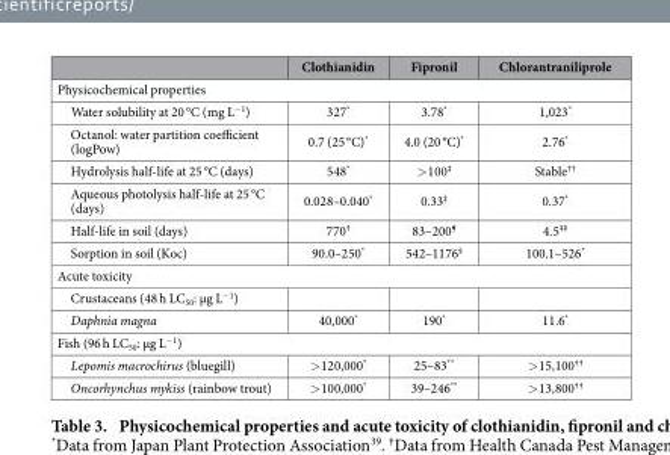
<table><thead><tr><td></td><td>Clothianidin</td><td>Fipronil</td><td>Chlorantraniliprole</td></tr></thead><tbody><tr><td colspan="4">Physicochemical properties</td></tr><tr><td>Water solubility at 20 °C (mg L<sup>−1</sup>)</td><td>327*</td><td>3.78*</td><td>1,023*</td></tr><tr><td>Octanol: water partition coefficient (logPow)</td><td>0.7 (25 °C)*</td><td>4.0 (20 °C)*</td><td>2.76*</td></tr><tr><td>Hydrolysis half-life at 25 °C (days)</td><td>548*</td><td>&gt; 100‡</td><td>Stable††</td></tr><tr><td>Aqueous photolysis half-life at 25 °C (days)</td><td>0.028–0.040*</td><td>0.33‡</td><td>0.37*</td></tr><tr><td>Half-life in soil (days)</td><td>770†</td><td>83–200¶</td><td>4.5‡‡</td></tr><tr><td>Sorption in soil (Koc)</td><td>90.0–250*</td><td>542–1176§</td><td>100.1–526*</td></tr><tr><td colspan="4">Acute toxicity</td></tr><tr><td colspan="4">Crustaceans (48 h LC<sub>50</sub>: μg L<sup>−1</sup>)</td></tr><tr><td>Daphnia magna</td><td>40,000*</td><td>190*</td><td>11.6*</td></tr><tr><td colspan="4">Fish (96 h LC<sub>50</sub>: μg L<sup>−1</sup>)</td></tr><tr><td>Lepomis macrochirus (bluegill)</td><td>&gt; 120,000*</td><td>25–83**</td><td>&gt; 15,100††</td></tr><tr><td>Oncorhynchus mykiss (rainbow trout)</td><td>&gt; 100,000*</td><td>39–246**</td><td>&gt; 13,800††</td></tr></tbody></table>